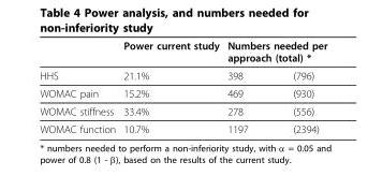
<table><thead><tr><td rowspan="2">HHS</td><td rowspan="2">Power current study 21.1%</td><td colspan="2">Numbers needed per approach (total) *</td></tr><tr><td>398</td><td>(796)</td></tr></thead><tbody><tr><td>WOMAC pain</td><td>15.2%</td><td>469</td><td>(930)</td></tr><tr><td>WOMAC stiffness</td><td>33.4%</td><td>278</td><td>(556)</td></tr><tr><td>WOMAC function</td><td>10.7%</td><td>1197</td><td>(2394)</td></tr></tbody></table>